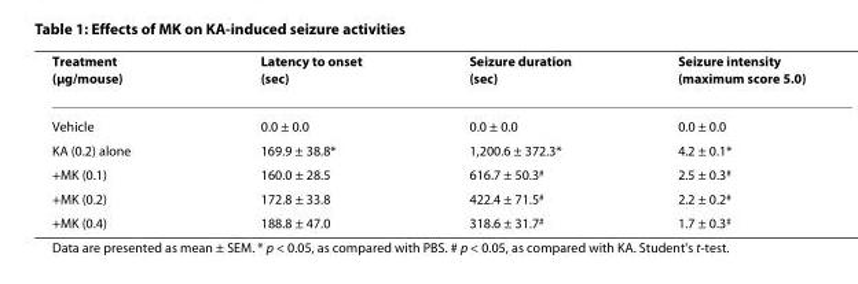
<table><thead><tr><td>Treatment (μg/mouse)</td><td>Latency to onset (sec)</td><td>Seizure duration (sec)</td><td>Seizure intensity (maximum score 5.0)</td></tr></thead><tbody><tr><td>Vehicle</td><td>0.0 ± 0.0</td><td>0.0 ± 0.0</td><td>0.0 ± 0.0</td></tr><tr><td>KA (0.2) alone</td><td>169.9 ± 38.8*</td><td>1,200.6 ± 372.3*</td><td>4.2 ± 0.1*</td></tr><tr><td>+MK (0.1)</td><td>160.0 ± 28.5</td><td>616.7 ± 50.3<sup>#</sup></td><td>2.5 ± 0.3<sup>#</sup></td></tr><tr><td>+MK (0.2)</td><td>172.8 ± 33.8</td><td>422.4 ± 71.5<sup>#</sup></td><td>2.2 ± 0.2<sup>#</sup></td></tr><tr><td>+MK (0.4)</td><td>188.8 ± 47.0</td><td>318.6 ± 31.7<sup>#</sup></td><td>1.7 ± 0.3<sup>#</sup></td></tr></tbody></table>